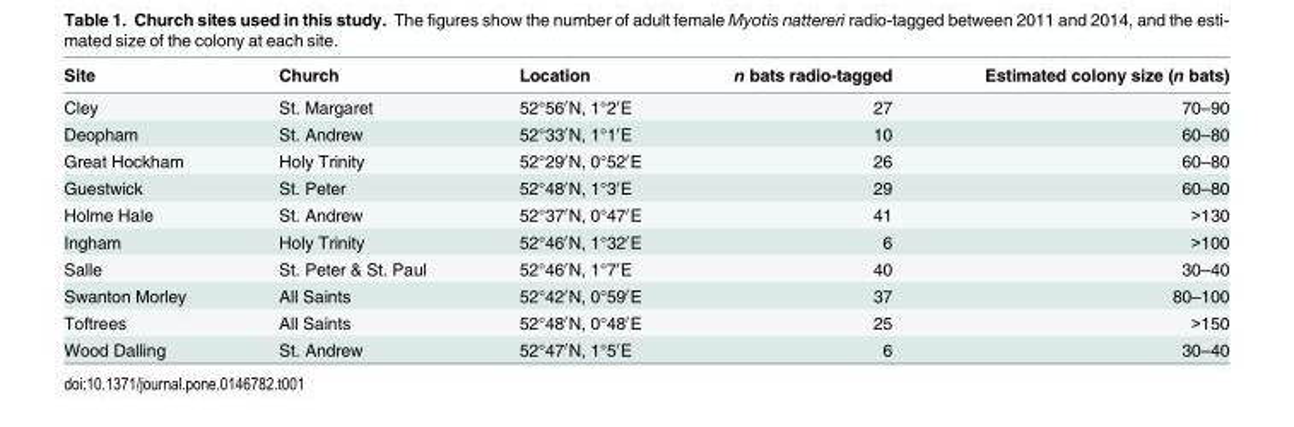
<table><thead><tr><td>Site</td><td>Church</td><td>Location</td><td>n bats radio-tagged</td><td>Estimated colony size (n bats)</td></tr></thead><tbody><tr><td>Cley</td><td>St. Margaret</td><td>52°56ʹN, 1°2ʹE</td><td>27</td><td>70–90</td></tr><tr><td>Deopham</td><td>St. Andrew</td><td>52°33ʹN, 1°1ʹE</td><td>10</td><td>60–80</td></tr><tr><td>Great Hockham</td><td>Holy Trinity</td><td>52°29ʹN, 0°52ʹE</td><td>26</td><td>60–80</td></tr><tr><td>Guestwick</td><td>St. Peter</td><td>52°48ʹN, 1°3ʹE</td><td>29</td><td>60–80</td></tr><tr><td>Holme Hale</td><td>St. Andrew</td><td>52°37ʹN, 0°47ʹE</td><td>41</td><td>&gt;130</td></tr><tr><td>Ingham</td><td>Holy Trinity</td><td>52°46ʹN, 1°32ʹE</td><td>6</td><td>&gt;100</td></tr><tr><td>Salle</td><td>St. Peter &amp; St. Paul</td><td>52°46ʹN, 1°7ʹE</td><td>40</td><td>30–40</td></tr><tr><td>Swanton Morley</td><td>All Saints</td><td>52°42ʹN, 0°59ʹE</td><td>37</td><td>80–100</td></tr><tr><td>Toftrees</td><td>All Saints</td><td>52°48ʹN, 0°48ʹE</td><td>25</td><td>&gt;150</td></tr><tr><td>Wood Dalling</td><td>St. Andrew</td><td>52°47ʹN, 1°5ʹE</td><td>6</td><td>30–40</td></tr></tbody></table>